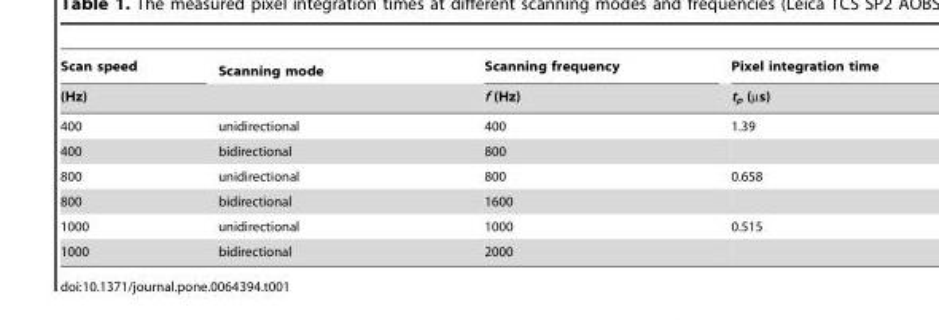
<table><thead><tr><td rowspan="2">Scan speed (Hz)</td><td rowspan="2">Scanning mode</td><td rowspan="2">Scanning frequency f (Hz)</td><td rowspan="2">Pixel integration time t<sub>p</sub> (µs)</td></tr><tr></tr></thead><tbody><tr><td>400</td><td>unidirectional</td><td>400</td><td>1.39</td></tr><tr><td>400</td><td>bidirectional</td><td>800</td><td></td></tr><tr><td>800</td><td>unidirectional</td><td>800</td><td>0.658</td></tr><tr><td>800</td><td>bidirectional</td><td>1600</td><td></td></tr><tr><td>1000</td><td>unidirectional</td><td>1000</td><td>0.515</td></tr><tr><td>1000</td><td>bidirectional</td><td>2000</td><td></td></tr></tbody></table>